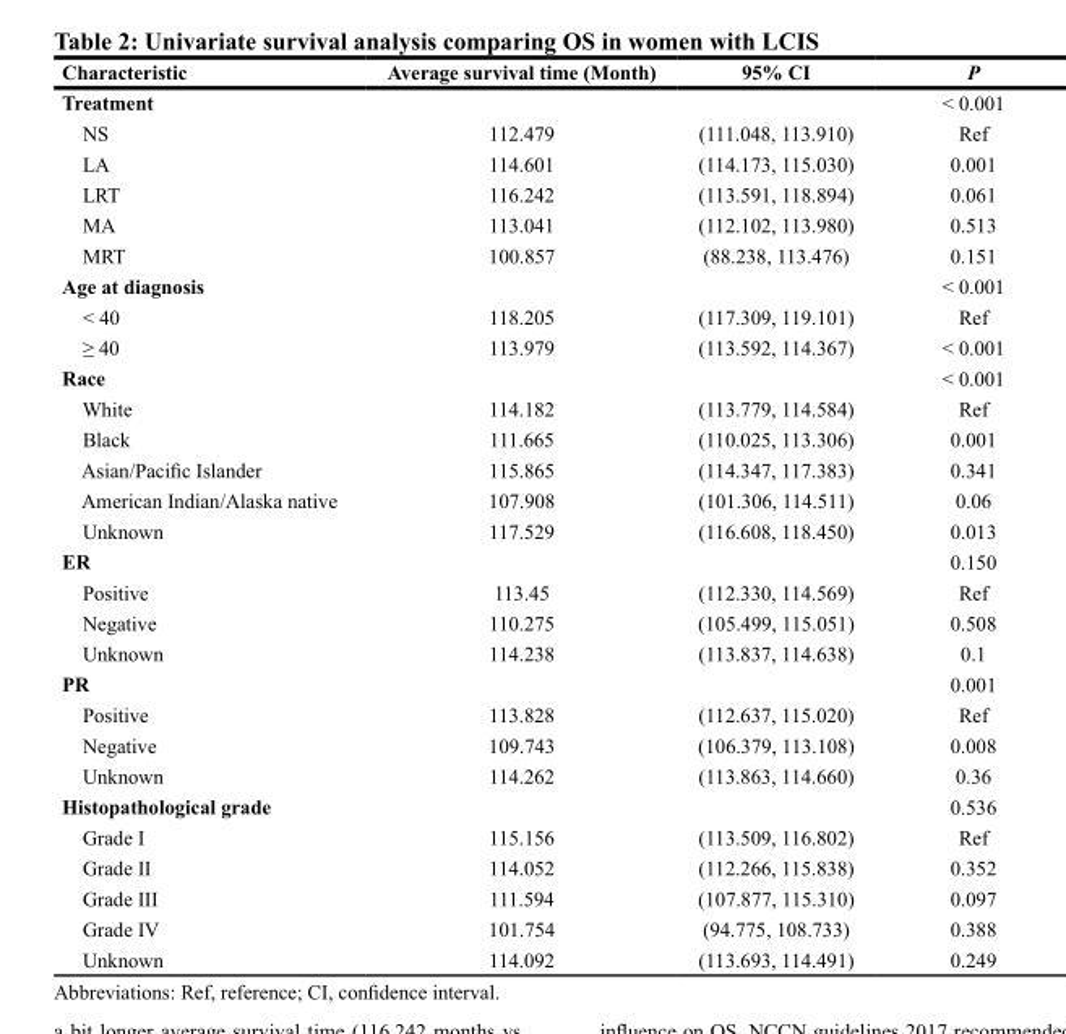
<table><thead><tr><td>Characteristic</td><td>Average survival time (Month)</td><td>95% CI</td><td>P</td></tr></thead><tbody><tr><td>Treatment</td><td></td><td></td><td>&lt; 0.001</td></tr><tr><td>NS</td><td>112.479</td><td>(111.048, 113.910)</td><td>Ref</td></tr><tr><td>LA</td><td>114.601</td><td>(114.173, 115.030)</td><td>0.001</td></tr><tr><td>LRT</td><td>116.242</td><td>(113.591, 118.894)</td><td>0.061</td></tr><tr><td>MA</td><td>113.041</td><td>(112.102, 113.980)</td><td>0.513</td></tr><tr><td>MRT</td><td>100.857</td><td>(88.238, 113.476)</td><td>0.151</td></tr><tr><td>Age at diagnosis</td><td></td><td></td><td>&lt; 0.001</td></tr><tr><td>&lt; 40</td><td>118.205</td><td>(117.309, 119.101)</td><td>Ref</td></tr><tr><td>≥ 40</td><td>113.979</td><td>(113.592, 114.367)</td><td>&lt; 0.001</td></tr><tr><td>Race</td><td></td><td></td><td>&lt; 0.001</td></tr><tr><td>White</td><td>114.182</td><td>(113.779, 114.584)</td><td>Ref</td></tr><tr><td>Black</td><td>111.665</td><td>(110.025, 113.306)</td><td>0.001</td></tr><tr><td>Asian/Pacific Islander</td><td>115.865</td><td>(114.347, 117.383)</td><td>0.341</td></tr><tr><td>American Indian/Alaska native</td><td>107.908</td><td>(101.306, 114.511)</td><td>0.06</td></tr><tr><td>Unknown</td><td>117.529</td><td>(116.608, 118.450)</td><td>0.013</td></tr><tr><td>ER</td><td></td><td></td><td>0.150</td></tr><tr><td>Positive</td><td>113.45</td><td>(112.330, 114.569)</td><td>Ref</td></tr><tr><td>Negative</td><td>110.275</td><td>(105.499, 115.051)</td><td>0.508</td></tr><tr><td>Unknown</td><td>114.238</td><td>(113.837, 114.638)</td><td>0.1</td></tr><tr><td>PR</td><td></td><td></td><td>0.001</td></tr><tr><td>Positive</td><td>113.828</td><td>(112.637, 115.020)</td><td>Ref</td></tr><tr><td>Negative</td><td>109.743</td><td>(106.379, 113.108)</td><td>0.008</td></tr><tr><td>Unknown</td><td>114.262</td><td>(113.863, 114.660)</td><td>0.36</td></tr><tr><td>Histopathological grade</td><td></td><td></td><td>0.536</td></tr><tr><td>Grade I</td><td>115.156</td><td>(113.509, 116.802)</td><td>Ref</td></tr><tr><td>Grade II</td><td>114.052</td><td>(112.266, 115.838)</td><td>0.352</td></tr><tr><td>Grade III</td><td>111.594</td><td>(107.877, 115.310)</td><td>0.097</td></tr><tr><td>Grade IV</td><td>101.754</td><td>(94.775, 108.733)</td><td>0.388</td></tr><tr><td>Unknown</td><td>114.092</td><td>(113.693, 114.491)</td><td>0.249</td></tr></tbody></table>